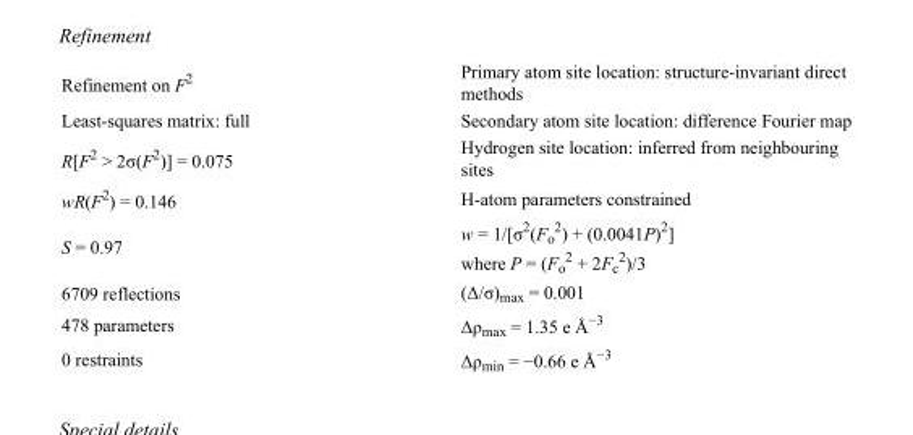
<table><tbody><tr><td>Refinement on F<sup>2</sup></td><td>Primary atom site location: structure-invariant direct methods</td></tr><tr><td>Least-squares matrix: full</td><td>Secondary atom site location: difference Fourier map</td></tr><tr><td>R[F<sup>2</sup> &gt; 2σ(F<sup>2</sup>)] = 0.075</td><td>Hydrogen site location: inferred from neighbouring sites</td></tr><tr><td>wR(F<sup>2</sup>) = 0.146</td><td>H-atom parameters constrained</td></tr><tr><td>S = 0.97</td><td>w = 1/[σ<sup>2</sup>(F<sub>o</sub> <sup>2</sup>) + (0.0041P)<sup>2</sup>] where P = (F<sub>o</sub> <sup>2</sup> + 2F<sub>c</sub> <sup>2</sup>)/3</td></tr><tr><td>6709 reflections</td><td>(Δ/σ)<sub>max</sub> = 0.001</td></tr><tr><td>478 parameters</td><td>Δρ<sub>max</sub> = 1.35 e Å<sup>−3</sup></td></tr><tr><td>0 restraints</td><td>Δρ<sub>min</sub> = −0.66 e Å<sup>−3</sup></td></tr></tbody></table>